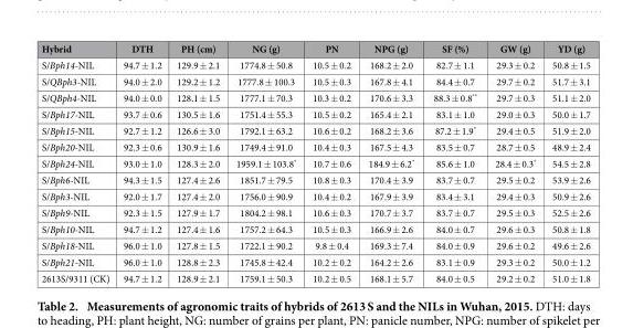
<table><thead><tr><td>Hybrid</td><td>DTH</td><td>PH (cm)</td><td>NG (g)</td><td>PN</td><td>NPG (g)</td><td>SF (%)</td><td>GW (g)</td><td>YD (g)</td></tr></thead><tbody><tr><td>S/Bph14-NIL</td><td>94.7 ± 1.2</td><td>129.9 ± 2.1</td><td>1774.8 ± 50.8</td><td>10.5 ± 0.2</td><td>168.2 ± 2.0</td><td>82.7 ± 1.1</td><td>29.3 ± 0.2</td><td>50.8 ± 1.5</td></tr><tr><td>S/QBph3-NIL</td><td>94.0 ± 2.0</td><td>129.2 ± 1.2</td><td>1777.8 ± 100.3</td><td>10.5 ± 0.3</td><td>167.8 ± 4.1</td><td>84.4 ± 0.7</td><td>29.7 ± 0.2</td><td>51.7 ± 3.1</td></tr><tr><td>S/QBph4-NIL</td><td>94.0 ± 0.0</td><td>128.1 ± 1.5</td><td>1777.1 ± 70.3</td><td>10.3 ± 0.2</td><td>170.6 ± 3.3</td><td>88.3 ± 0.8**</td><td>29.7 ± 0.3</td><td>51.1 ± 2.0</td></tr><tr><td>S/Bph17-NIL</td><td>93.7 ± 0.6</td><td>130.5 ± 1.6</td><td>1751.4 ± 55.3</td><td>10.5 ± 0.2</td><td>165.4 ± 2.1</td><td>83.1 ± 1.0</td><td>29.0 ± 0.3</td><td>50.0 ± 1.7</td></tr><tr><td>S/Bph15-NIL</td><td>92.7 ± 1.2</td><td>126.6 ± 3.0</td><td>1792.1 ± 63.2</td><td>10.6 ± 0.2</td><td>168.2 ± 3.6</td><td>87.2 ± 1.9*</td><td>29.4 ± 0.5</td><td>51.9 ± 2.0</td></tr><tr><td>S/Bph20-NIL</td><td>92.3 ± 0.6</td><td>130.9 ± 1.6</td><td>1749.4 ± 91.0</td><td>10.4 ± 0.3</td><td>167.5 ± 4.3</td><td>83.5 ± 0.7</td><td>28.7 ± 0.5</td><td>48.9 ± 2.4</td></tr><tr><td>S/Bph24-NIL</td><td>93.0 ± 1.0</td><td>128.3 ± 2.0</td><td>1959.1 ± 103.8*</td><td>10.7 ± 0.6</td><td>184.9 ± 6.2*</td><td>85.6 ± 1.0</td><td>28.4 ± 0.3*</td><td>54.5 ± 2.8</td></tr><tr><td>S/Bph6-NIL</td><td>94.3 ± 1.5</td><td>127.4 ± 2.6</td><td>1851.7 ± 79.5</td><td>10.8 ± 0.3</td><td>170.4 ± 3.9</td><td>83.7 ± 0.7</td><td>29.5 ± 0.2</td><td>53.9 ± 2.6</td></tr><tr><td>S/Bph3-NIL</td><td>92.0 ± 1.7</td><td>127.4 ± 2.0</td><td>1756.0 ± 90.9</td><td>10.4 ± 0.2</td><td>167.9 ± 3.9</td><td>83.4 ± 3.1</td><td>29.4 ± 0.3</td><td>50.9 ± 2.6</td></tr><tr><td>S/Bph9-NIL</td><td>92.3 ± 1.5</td><td>127.9 ± 1.7</td><td>1804.2 ± 98.1</td><td>10.6 ± 0.3</td><td>170.7 ± 3.7</td><td>83.7 ± 0.7</td><td>29.5 ± 0.3</td><td>52.5 ± 2.6</td></tr><tr><td>S/Bph10-NIL</td><td>94.7 ± 1.2</td><td>127.4 ± 1.6</td><td>1757.2 ± 64.3</td><td>10.5 ± 0.3</td><td>166.9 ± 2.6</td><td>84.0 ± 0.7</td><td>29.6 ± 0.3</td><td>50.8 ± 1.8</td></tr><tr><td>S/Bph18-NIL</td><td>96.0 ± 1.0</td><td>127.8 ± 1.5</td><td>1722.1 ± 90.2</td><td>9.8 ± 0.4</td><td>169.3 ± 7.4</td><td>84.0 ± 0.9</td><td>29.6 ± 0.2</td><td>49.6 ± 2.6</td></tr><tr><td>S/Bph21-NIL</td><td>96.0 ± 1.0</td><td>128.8 ± 2.3</td><td>1745.8 ± 42.4</td><td>10.2 ± 0.2</td><td>164.2 ± 2.6</td><td>83.1 ± 0.9</td><td>29.3 ± 0.2</td><td>50.0 ± 1.2</td></tr><tr><td>2613S/9311 (CK)</td><td>94.7 ± 1.2</td><td>128.9 ± 2.1</td><td>1759.1 ± 50.3</td><td>10.2 ± 0.5</td><td>168.1 ± 5.7</td><td>84.0 ± 0.5</td><td>29.2 ± 0.2</td><td>51.0 ± 1.8</td></tr></tbody></table>